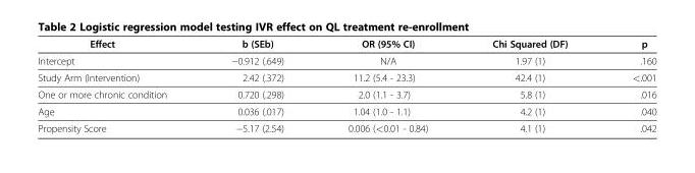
<table><thead><tr><td>Effect</td><td>b (SEb)</td><td>OR (95% CI)</td><td>Chi Squared (DF)</td><td>p</td></tr></thead><tbody><tr><td>Intercept</td><td>−0.912 (.649)</td><td>N/A</td><td>1.97 (1)</td><td>.160</td></tr><tr><td>Study Arm (Intervention)</td><td>2.42 (.372)</td><td>11.2 (5.4 - 23.3)</td><td>42.4 (1)</td><td>&lt;.001</td></tr><tr><td>One or more chronic condition</td><td>0.720 (.298)</td><td>2.0 (1.1 - 3.7)</td><td>5.8 (1)</td><td>.016</td></tr><tr><td>Age</td><td>0.036 (.017)</td><td>1.04 (1.0 - 1.1)</td><td>4.2 (1)</td><td>.040</td></tr><tr><td>Propensity Score</td><td>−5.17 (2.54)</td><td>0.006 (&lt;0.01 - 0.84)</td><td>4.1 (1)</td><td>.042</td></tr></tbody></table>